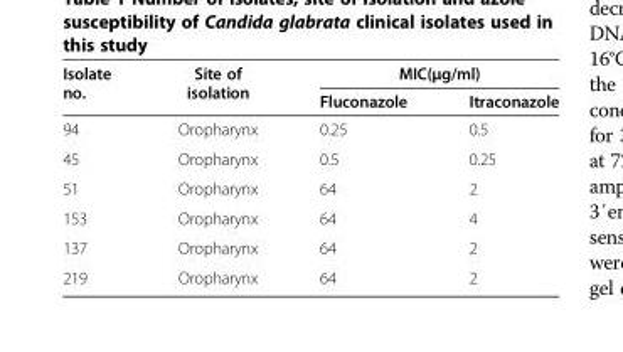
<table><thead><tr><td rowspan="2">Isolate no.</td><td rowspan="2">Site of isolation</td><td colspan="2">MIC(μg/ml)</td></tr><tr><td>Fluconazole</td><td>Itraconazole</td></tr></thead><tbody><tr><td>94</td><td>Oropharynx</td><td>0.25</td><td>0.5</td></tr><tr><td>45</td><td>Oropharynx</td><td>0.5</td><td>0.25</td></tr><tr><td>51</td><td>Oropharynx</td><td>64</td><td>2</td></tr><tr><td>153</td><td>Oropharynx</td><td>64</td><td>4</td></tr><tr><td>137</td><td>Oropharynx</td><td>64</td><td>2</td></tr><tr><td>219</td><td>Oropharynx</td><td>64</td><td>2</td></tr></tbody></table>